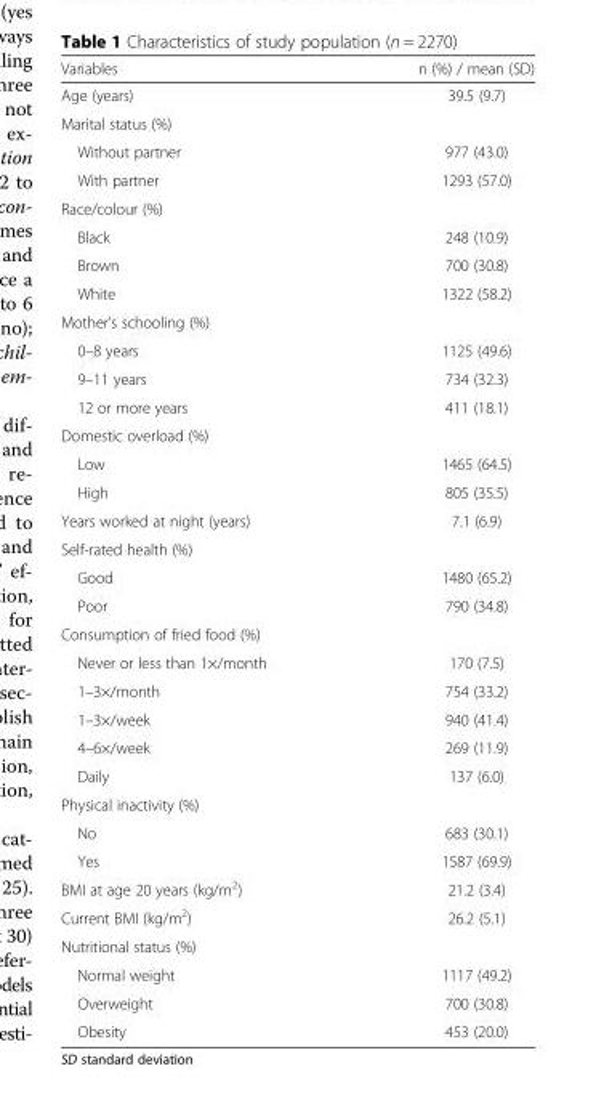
<table><thead><tr><td>Variables</td><td>n (%) / mean (SD)</td></tr></thead><tbody><tr><td>Age (years)</td><td>39.5 (9.7)</td></tr><tr><td colspan="2">Marital status (%)</td></tr><tr><td>Without partner</td><td>977 (43.0)</td></tr><tr><td>With partner</td><td>1293 (57.0)</td></tr><tr><td colspan="2">Race/colour (%)</td></tr><tr><td>Black</td><td>248 (10.9)</td></tr><tr><td>Brown</td><td>700 (30.8)</td></tr><tr><td>White</td><td>1322 (58.2)</td></tr><tr><td colspan="2">Mother’s schooling (%)</td></tr><tr><td>0–8 years</td><td>1125 (49.6)</td></tr><tr><td>9–11 years</td><td>734 (32.3)</td></tr><tr><td>12 or more years</td><td>411 (18.1)</td></tr><tr><td colspan="2">Domestic overload (%)</td></tr><tr><td>Low</td><td>1465 (64.5)</td></tr><tr><td>High</td><td>805 (35.5)</td></tr><tr><td>Years worked at night (years)</td><td>7.1 (6.9)</td></tr><tr><td colspan="2">Self-rated health (%)</td></tr><tr><td>Good</td><td>1480 (65.2)</td></tr><tr><td>Poor</td><td>790 (34.8)</td></tr><tr><td colspan="2">Consumption of fried food (%)</td></tr><tr><td>Never or less than 1×/month</td><td>170 (7.5)</td></tr><tr><td>1–3×/month</td><td>754 (33.2)</td></tr><tr><td>1–3×/week</td><td>940 (41.4)</td></tr><tr><td>4–6×/week</td><td>269 (11.9)</td></tr><tr><td>Daily</td><td>137 (6.0)</td></tr><tr><td colspan="2">Physical inactivity (%)</td></tr><tr><td>No</td><td>683 (30.1)</td></tr><tr><td>Yes</td><td>1587 (69.9)</td></tr><tr><td>BMI at age 20 years (kg/m<sup>2</sup>)</td><td>21.2 (3.4)</td></tr><tr><td>Current BMI (kg/m<sup>2</sup>)</td><td>26.2 (5.1)</td></tr><tr><td colspan="2">Nutritional status (%)</td></tr><tr><td>Normal weight</td><td>1117 (49.2)</td></tr><tr><td>Overweight</td><td>700 (30.8)</td></tr><tr><td>Obesity</td><td>453 (20.0)</td></tr></tbody></table>